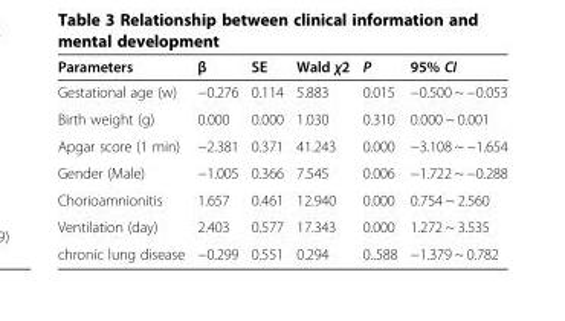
<table><thead><tr><td>Parameters</td><td>β</td><td>SE</td><td>Wald χ2</td><td>P</td><td>95% CI</td></tr></thead><tbody><tr><td>Gestational age (w)</td><td>−0.276</td><td>0.114</td><td>5.883</td><td>0.015</td><td>−0.500 ~ −0.053</td></tr><tr><td>Birth weight (g)</td><td>0.000</td><td>0.000</td><td>1.030</td><td>0.310</td><td>0.000 ~ 0.001</td></tr><tr><td>Apgar score (1 min)</td><td>−2.381</td><td>0.371</td><td>41.243</td><td>0.000</td><td>−3.108 ~ −1.654</td></tr><tr><td>Gender (Male)</td><td>−1.005</td><td>0.366</td><td>7.545</td><td>0.006</td><td>−1.722 ~ −0.288</td></tr><tr><td>Chorioamnionitis</td><td>1.657</td><td>0.461</td><td>12.940</td><td>0.000</td><td>0.754 ~ 2.560</td></tr><tr><td>Ventilation (day)</td><td>2.403</td><td>0.577</td><td>17.343</td><td>0.000</td><td>1.272 ~ 3.535</td></tr><tr><td>chronic lung disease</td><td>−0.299</td><td>0.551</td><td>0.294</td><td>0..588</td><td>−1.379 ~ 0.782</td></tr></tbody></table>